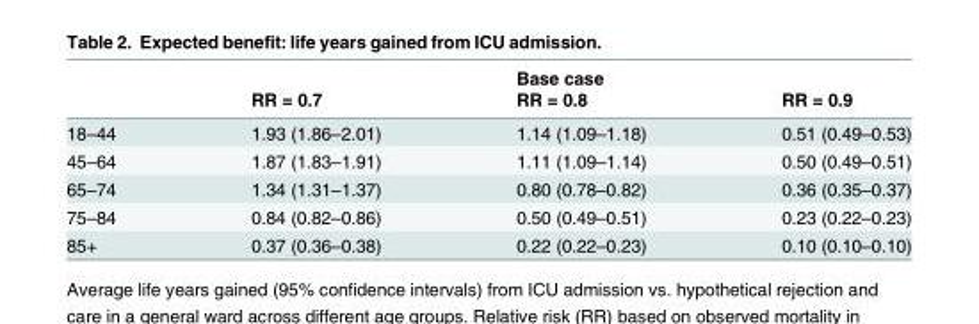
<table><thead><tr><td rowspan="2"></td><td rowspan="2">RR = 0.7</td><td rowspan="2">Base case RR = 0.8</td><td rowspan="2">RR = 0.9</td></tr><tr></tr></thead><tbody><tr><td>18–44</td><td>1.93 (1.86–2.01)</td><td>1.14 (1.09–1.18)</td><td>0.51 (0.49–0.53)</td></tr><tr><td>45–64</td><td>1.87 (1.83–1.91)</td><td>1.11 (1.09–1.14)</td><td>0.50 (0.49–0.51)</td></tr><tr><td>65–74</td><td>1.34 (1.31–1.37)</td><td>0.80 (0.78–0.82)</td><td>0.36 (0.35–0.37)</td></tr><tr><td>75–84</td><td>0.84 (0.82–0.86)</td><td>0.50 (0.49–0.51)</td><td>0.23 (0.22–0.23)</td></tr><tr><td>85+</td><td>0.37 (0.36–0.38)</td><td>0.22 (0.22–0.23)</td><td>0.10 (0.10–0.10)</td></tr></tbody></table>